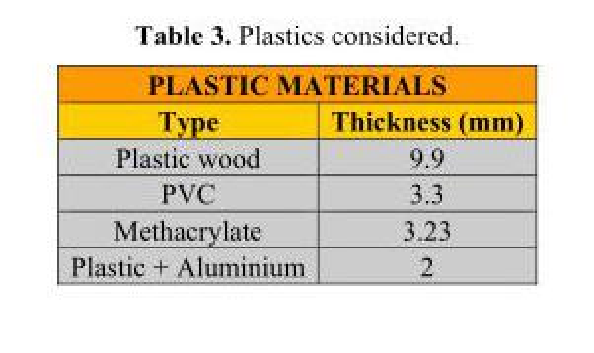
<table><thead><tr><td colspan="2">PLASTIC MATERIALS</td></tr><tr><td>Type</td><td>Thickness (mm)</td></tr></thead><tbody><tr><td>Plastic wood</td><td>9.9</td></tr><tr><td>PVC</td><td>3.3</td></tr><tr><td>Methacrylate</td><td>3.23</td></tr><tr><td>Plastic + Aluminium</td><td>2</td></tr></tbody></table>